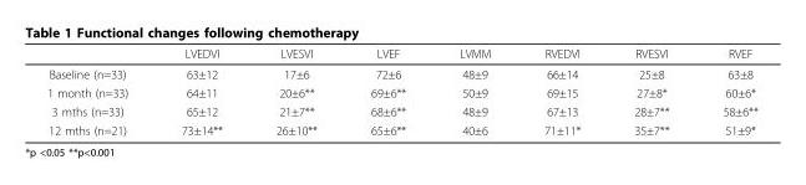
<table><thead><tr><td></td><td>LVEDVI</td><td>LVESVI</td><td>LVEF</td><td>LVMM</td><td>RVEDVI</td><td>RVESVI</td><td>RVEF</td></tr></thead><tbody><tr><td>Baseline (n=33)</td><td>63±12</td><td>17±6</td><td>72±6</td><td>48±9</td><td>66±14</td><td>25±8</td><td>63±8</td></tr><tr><td>1 month (n=33)</td><td>64±11</td><td>20±6**</td><td>69±6**</td><td>50±9</td><td>69±15</td><td>27±8*</td><td>60±6*</td></tr><tr><td>3 mths (n=33)</td><td>65±12</td><td>21±7**</td><td>68±6**</td><td>48±9</td><td>67±13</td><td>28±7**</td><td>58±6**</td></tr><tr><td>12 mths (n=21)</td><td>73±14**</td><td>26±10**</td><td>65±6**</td><td>40±6</td><td>71±11*</td><td>35±7**</td><td>51±9*</td></tr></tbody></table>